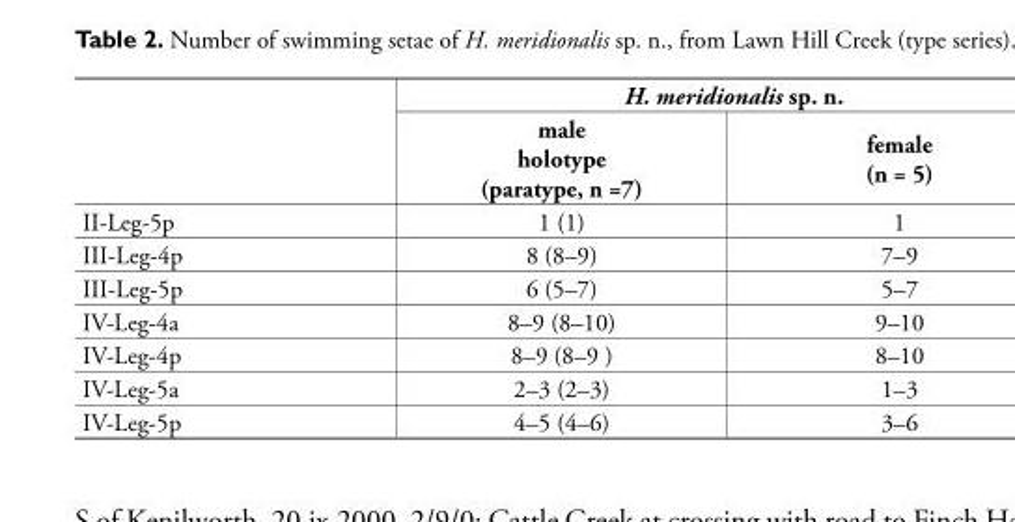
<table><thead><tr><td rowspan="2"></td><td colspan="2">H. meridionalis sp. n.</td></tr><tr><td>male holotype (paratype, n =7)</td><td>female (n = 5)</td></tr></thead><tbody><tr><td>II-Leg-5p</td><td>1 (1)</td><td>1</td></tr><tr><td>III-Leg-4p</td><td>8 (8–9)</td><td>7–9</td></tr><tr><td>III-Leg-5p</td><td>6 (5–7)</td><td>5–7</td></tr><tr><td>IV-Leg-4a</td><td>8–9 (8–10)</td><td>9–10</td></tr><tr><td>IV-Leg-4p</td><td>8–9 (8–9 )</td><td>8–10</td></tr><tr><td>IV-Leg-5a</td><td>2–3 (2–3)</td><td>1–3</td></tr><tr><td>IV-Leg-5p</td><td>4–5 (4–6)</td><td>3–6</td></tr></tbody></table>